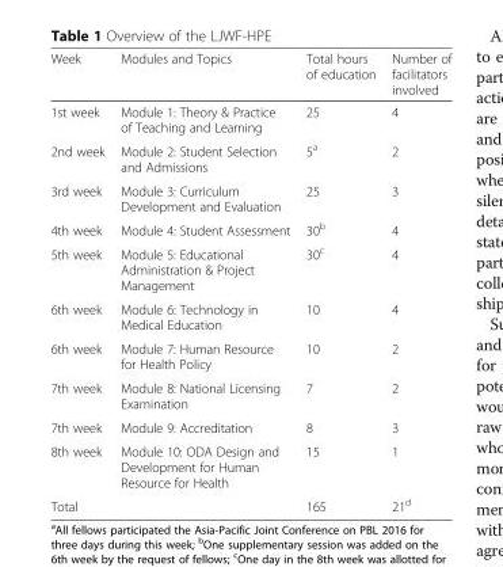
<table><thead><tr><td>Week</td><td>Modules and Topics</td><td>Total hours of education</td><td>Number of facilitators involved</td></tr></thead><tbody><tr><td>1st week</td><td>Module 1: Theory &amp; Practice of Teaching and Learning</td><td>25</td><td>4</td></tr><tr><td>2nd week</td><td>Module 2: Student Selection and Admissions</td><td>5<sup>a</sup></td><td>2</td></tr><tr><td>3rd week</td><td>Module 3: Curriculum Development and Evaluation</td><td>25</td><td>3</td></tr><tr><td>4th week</td><td>Module 4: Student Assessment</td><td>30<sup>b</sup></td><td>4</td></tr><tr><td>5th week</td><td>Module 5: Educational Administration &amp; Project Management</td><td>30<sup>c</sup></td><td>4</td></tr><tr><td>6th week</td><td>Module 6: Technology in Medical Education</td><td>10</td><td>4</td></tr><tr><td>6th week</td><td>Module 7: Human Resource for Health Policy</td><td>10</td><td>2</td></tr><tr><td>7th week</td><td>Module 8: National Licensing Examination</td><td>7</td><td>2</td></tr><tr><td>7th week</td><td>Module 9: Accreditation</td><td>8</td><td>3</td></tr><tr><td>8th week</td><td>Module 10: ODA Design and Development for Human Resource for Health</td><td>15</td><td>1</td></tr><tr><td colspan="2">Total</td><td>165</td><td>21<sup>d</sup></td></tr></tbody></table>